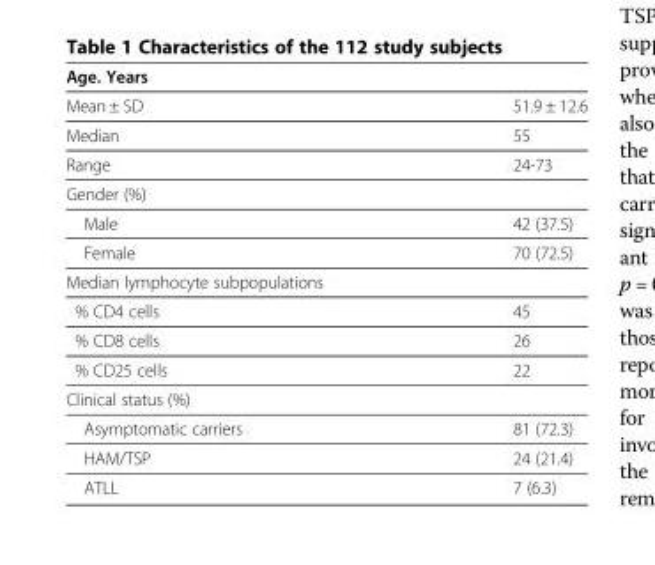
<table><thead><tr><td>Age. Years</td><td></td></tr></thead><tbody><tr><td>Mean ± SD</td><td>51.9 ± 12.6</td></tr><tr><td>Median</td><td>55</td></tr><tr><td>Range</td><td>24-73</td></tr><tr><td colspan="2">Gender (%)</td></tr><tr><td>Male</td><td>42 (37.5)</td></tr><tr><td>Female</td><td>70 (72.5)</td></tr><tr><td colspan="2">Median lymphocyte subpopulations</td></tr><tr><td>% CD4 cells</td><td>45</td></tr><tr><td>% CD8 cells</td><td>26</td></tr><tr><td>% CD25 cells</td><td>22</td></tr><tr><td colspan="2">Clinical status (%)</td></tr><tr><td>Asymptomatic carriers</td><td>81 (72.3)</td></tr><tr><td>HAM/TSP</td><td>24 (21.4)</td></tr><tr><td>ATLL</td><td>7 (6.3)</td></tr></tbody></table>